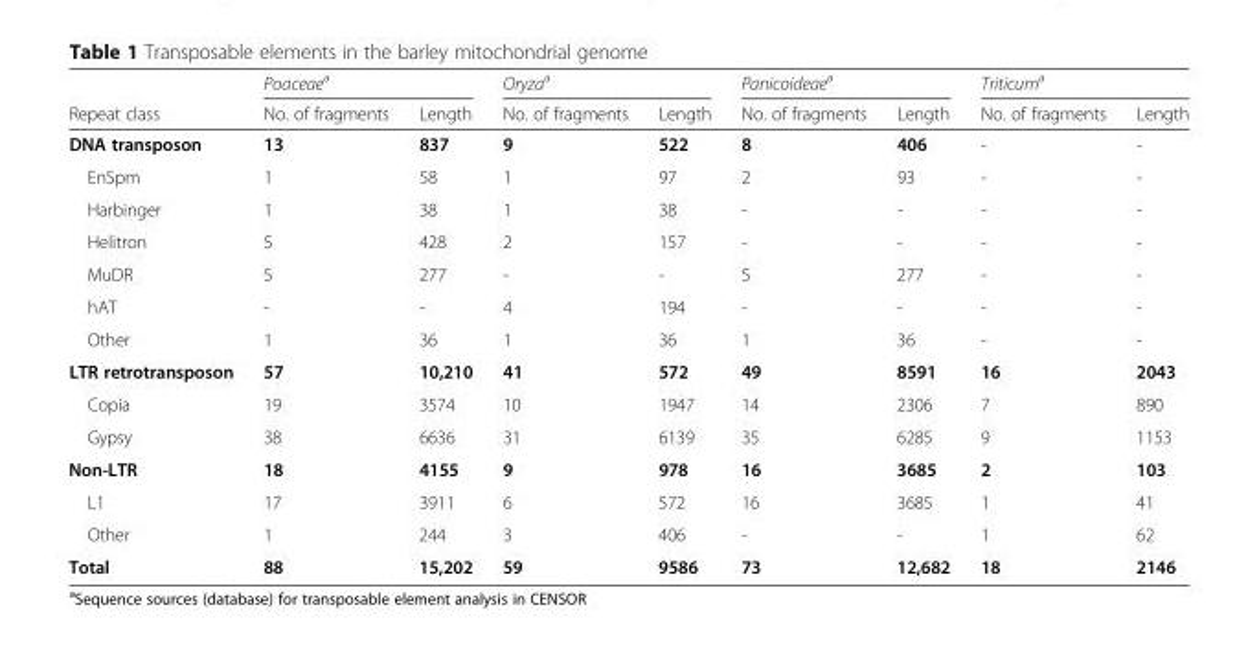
<table><thead><tr><td rowspan="2">Repeat class</td><td colspan="2">Poaceae<sup>a</sup></td><td colspan="2">Oryza<sup>a</sup></td><td colspan="2">Panicoideae<sup>a</sup></td><td colspan="2">Triticum<sup>a</sup></td></tr><tr><td>No. of fragments</td><td>Length</td><td>No. of fragments</td><td>Length</td><td>No. of fragments</td><td>Length</td><td>No. of fragments</td><td>Length</td></tr></thead><tbody><tr><td>DNA transposon</td><td>13</td><td>837</td><td>9</td><td>522</td><td>8</td><td>406</td><td>-</td><td>-</td></tr><tr><td>EnSpm</td><td>1</td><td>58</td><td>1</td><td>97</td><td>2</td><td>93</td><td>-</td><td>-</td></tr><tr><td>Harbinger</td><td>1</td><td>38</td><td>1</td><td>38</td><td>-</td><td>-</td><td>-</td><td>-</td></tr><tr><td>Helitron</td><td>5</td><td>428</td><td>2</td><td>157</td><td>-</td><td>-</td><td>-</td><td>-</td></tr><tr><td>MuDR</td><td>5</td><td>277</td><td>-</td><td>-</td><td>5</td><td>277</td><td>-</td><td>-</td></tr><tr><td>hAT</td><td>-</td><td>-</td><td>4</td><td>194</td><td>-</td><td>-</td><td>-</td><td>-</td></tr><tr><td>Other</td><td>1</td><td>36</td><td>1</td><td>36</td><td>1</td><td>36</td><td>-</td><td>-</td></tr><tr><td>LTR retrotransposon</td><td>57</td><td>10,210</td><td>41</td><td>572</td><td>49</td><td>8591</td><td>16</td><td>2043</td></tr><tr><td>Copia</td><td>19</td><td>3574</td><td>10</td><td>1947</td><td>14</td><td>2306</td><td>7</td><td>890</td></tr><tr><td>Gypsy</td><td>38</td><td>6636</td><td>31</td><td>6139</td><td>35</td><td>6285</td><td>9</td><td>1153</td></tr><tr><td>Non-LTR</td><td>18</td><td>4155</td><td>9</td><td>978</td><td>16</td><td>3685</td><td>2</td><td>103</td></tr><tr><td>L1</td><td>17</td><td>3911</td><td>6</td><td>572</td><td>16</td><td>3685</td><td>1</td><td>41</td></tr><tr><td>Other</td><td>1</td><td>244</td><td>3</td><td>406</td><td>-</td><td>-</td><td>1</td><td>62</td></tr><tr><td>Total</td><td>88</td><td>15,202</td><td>59</td><td>9586</td><td>73</td><td>12,682</td><td>18</td><td>2146</td></tr></tbody></table>